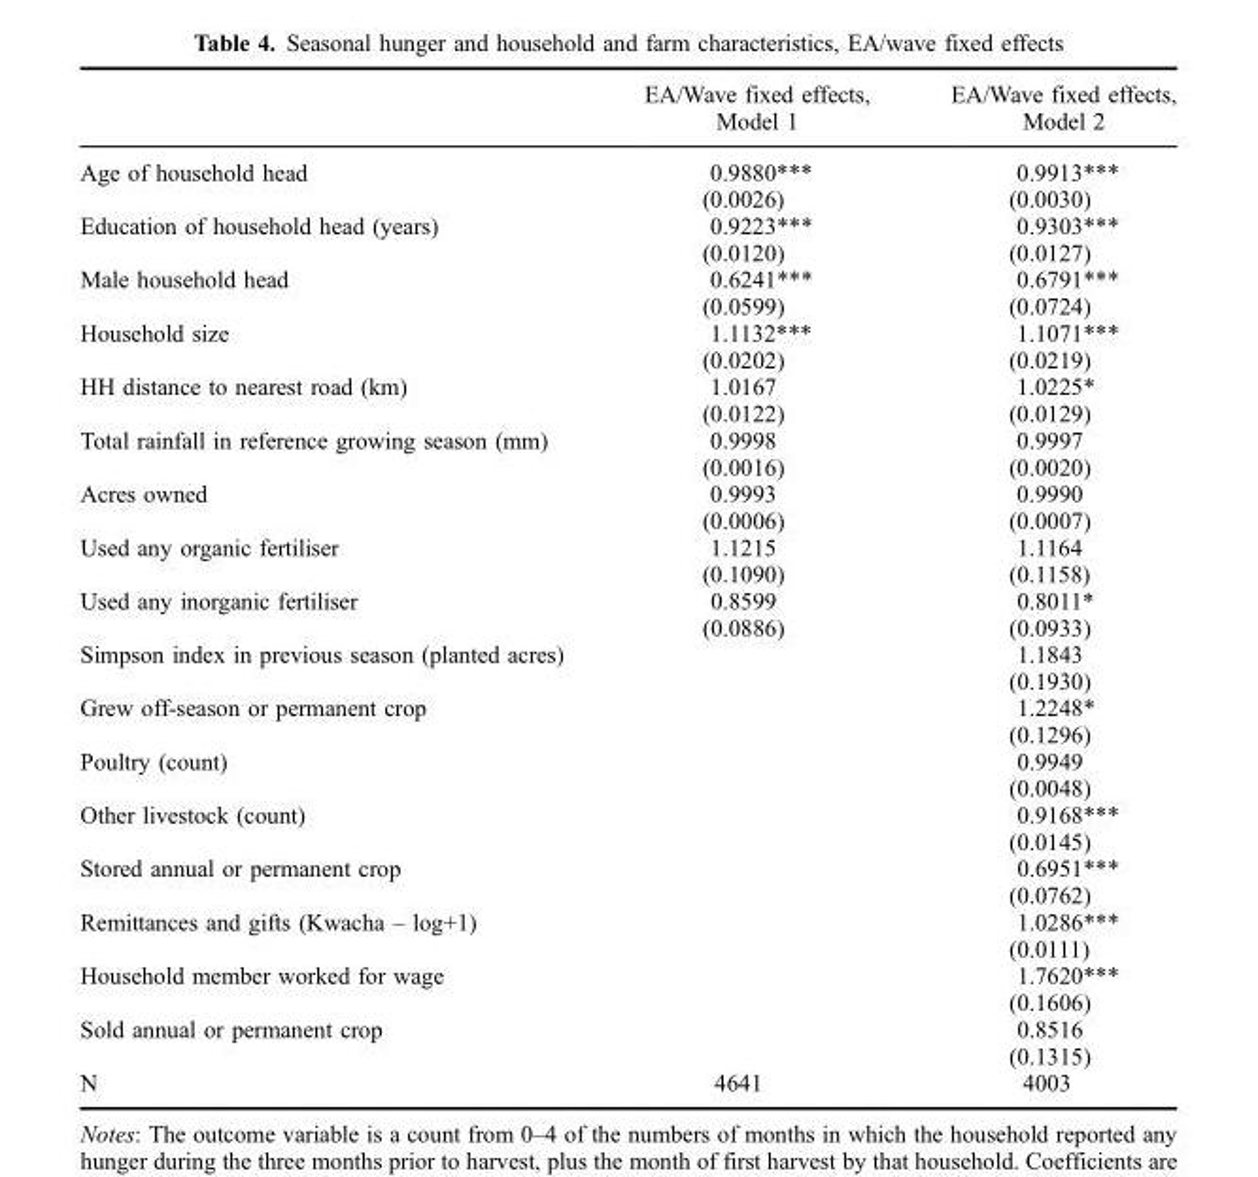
<table><thead><tr><td></td><td>EA/Wave fixed effects, Model 1</td><td>EA/Wave fixed effects, Model 2</td></tr></thead><tbody><tr><td rowspan="2">Age of household head</td><td>0.9880***</td><td>0.9913***</td></tr><tr><td>(0.0026)</td><td>(0.0030)</td></tr><tr><td rowspan="2">Education of household head (years)</td><td>0.9223***</td><td>0.9303***</td></tr><tr><td>(0.0120)</td><td>(0.0127)</td></tr><tr><td rowspan="2">Male household head</td><td>0.6241***</td><td>0.6791***</td></tr><tr><td>(0.0599)</td><td>(0.0724)</td></tr><tr><td rowspan="2">Household size</td><td>1.1132***</td><td>1.1071***</td></tr><tr><td>(0.0202)</td><td>(0.0219)</td></tr><tr><td rowspan="2">HH distance to nearest road (km)</td><td>1.0167</td><td>1.0225*</td></tr><tr><td>(0.0122)</td><td>(0.0129)</td></tr><tr><td rowspan="2">Total rainfall in reference growing season (mm)</td><td>0.9998</td><td>0.9997</td></tr><tr><td>(0.0016)</td><td>(0.0020)</td></tr><tr><td rowspan="2">Acres owned</td><td>0.9993</td><td>0.9990</td></tr><tr><td>(0.0006)</td><td>(0.0007)</td></tr><tr><td rowspan="2">Used any organic fertiliser</td><td>1.1215</td><td>1.1164</td></tr><tr><td>(0.1090)</td><td>(0.1158)</td></tr><tr><td rowspan="2">Used any inorganic fertiliser</td><td>0.8599</td><td>0.8011*</td></tr><tr><td>(0.0886)</td><td>(0.0933)</td></tr><tr><td rowspan="2">Simpson index in previous season (planted acres)</td><td></td><td>1.1843</td></tr><tr><td></td><td>(0.1930)</td></tr><tr><td rowspan="2">Grew off-season or permanent crop</td><td></td><td>1.2248*</td></tr><tr><td></td><td>(0.1296)</td></tr><tr><td rowspan="2">Poultry (count)</td><td></td><td>0.9949</td></tr><tr><td></td><td>(0.0048)</td></tr><tr><td rowspan="2">Other livestock (count)</td><td></td><td>0.9168***</td></tr><tr><td></td><td>(0.0145)</td></tr><tr><td rowspan="2">Stored annual or permanent crop</td><td></td><td>0.6951***</td></tr><tr><td></td><td>(0.0762)</td></tr><tr><td rowspan="2">Remittances and gifts (Kwacha – log+1)</td><td></td><td>1.0286***</td></tr><tr><td></td><td>(0.0111)</td></tr><tr><td rowspan="2">Household member worked for wage</td><td></td><td>1.7620***</td></tr><tr><td></td><td>(0.1606)</td></tr><tr><td rowspan="2">Sold annual or permanent crop</td><td></td><td>0.8516</td></tr><tr><td></td><td>(0.1315)</td></tr><tr><td>N</td><td>4641</td><td>4003</td></tr></tbody></table>